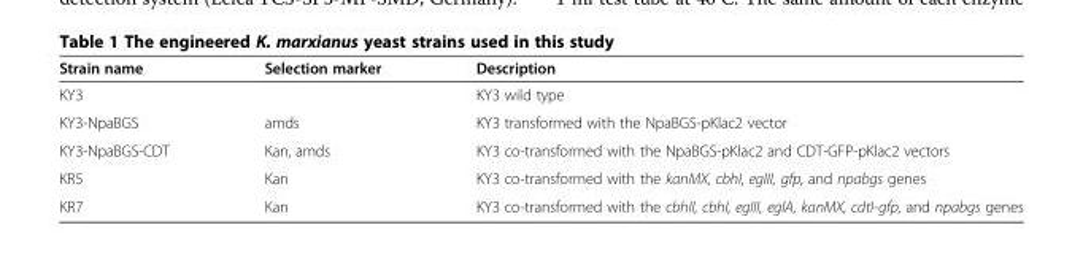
<table><thead><tr><td>Strain name</td><td>Selection marker</td><td>Description</td></tr></thead><tbody><tr><td>KY3</td><td></td><td>KY3 wild type</td></tr><tr><td>KY3-NpaBGS</td><td>amds</td><td>KY3 transformed with the NpaBGS-pKlac2 vector</td></tr><tr><td>KY3-NpaBGS-CDT</td><td>Kan, amds</td><td>KY3 co-transformed with the NpaBGS-pKlac2 and CDT-GFP-pKlac2 vectors</td></tr><tr><td>KR5</td><td>Kan</td><td>KY3 co-transformed with the kanMX, cbhI, egIII, gfp, and npabgs genes</td></tr><tr><td>KR7</td><td>Kan</td><td>KY3 co-transformed with the cbhII, cbhI, egIII, eglA, kanMX, cdtI-gfp, and npabgs genes</td></tr></tbody></table>